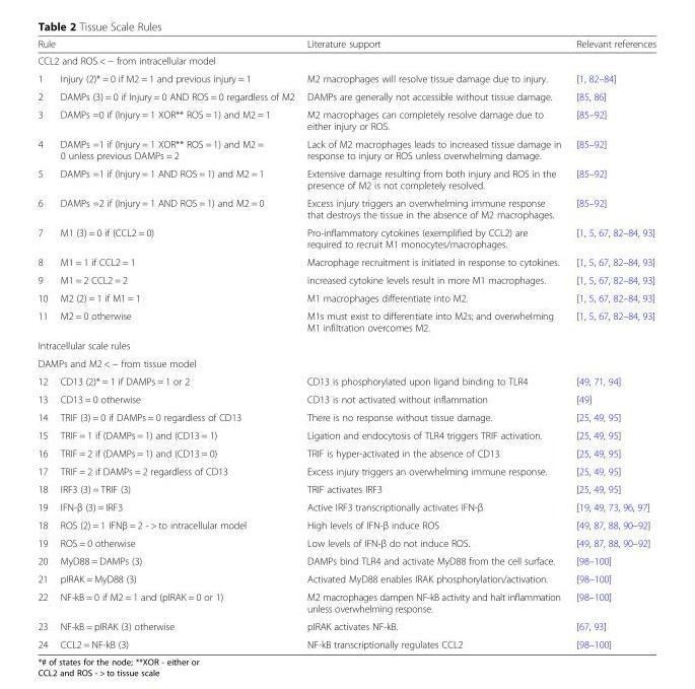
<table><thead><tr><td colspan="2">Rule</td><td>Literature support</td><td>Relevant references</td></tr><tr><td colspan="4">CCL2 and ROS &lt; − from intracellular model</td></tr><tr><td>1</td><td>Injury (2)* = 0 if M2 = 1 and previous injury = 1</td><td>M2 macrophages will resolve tissue damage due to injury.</td><td>[1, 82–84]</td></tr></thead><tbody><tr><td>2</td><td>DAMPs (3) = 0 if Injury = 0 AND ROS = 0 regardless of M2</td><td>DAMPs are generally not accessible without tissue damage.</td><td>[85, 86]</td></tr><tr><td>3</td><td>DAMPs =0 if (Injury = 1 XOR** ROS = 1) and M2 = 1</td><td>M2 macrophages can completely resolve damage due to either injury or ROS.</td><td>[85–92]</td></tr><tr><td>4</td><td>DAMPs =1 if (Injury = 1 XOR** ROS = 1) and M2 = 0 unless previous DAMPs = 2</td><td>Lack of M2 macrophages leads to increased tissue damage in response to injury or ROS unless overwhelming damage.</td><td>[85–92]</td></tr><tr><td>5</td><td>DAMPs =1 if (Injury = 1 AND ROS = 1) and M2 = 1</td><td>Extensive damage resulting from both injury and ROS in the presence of M2 is not completely resolved.</td><td>[85–92]</td></tr><tr><td>6</td><td>DAMPs =2 if (Injury = 1 AND ROS = 1) and M2 = 0</td><td>Excess injury triggers an overwhelming immune response that destroys the tissue in the absence of M2 macrophages.</td><td>[85–92]</td></tr><tr><td>7</td><td>M1 (3) = 0 if (CCL2 = 0)</td><td>Pro-inflammatory cytokines (exemplified by CCL2) are required to recruit M1 monocytes/macrophages.</td><td>[1, 5, 67, 82–84, 93]</td></tr><tr><td>8</td><td>M1 = 1 if CCL2 = 1</td><td>Macrophage recruitment is initiated in response to cytokines.</td><td>[1, 5, 67, 82–84, 93]</td></tr><tr><td>9</td><td>M1 = 2 CCL2 = 2</td><td>increased cytokine levels result in more M1 macrophages.</td><td>[1, 5, 67, 82–84, 93]</td></tr><tr><td>10</td><td>M2 (2) = 1 if M1 = 1</td><td>M1 macrophages differentiate into M2.</td><td>[1, 5, 67, 82–84, 93]</td></tr><tr><td>11</td><td>M2 = 0 otherwise</td><td>M1s must exist to differentiate into M2s; and overwhelming M1 infiltration overcomes M2.</td><td>[1, 5, 67, 82–84, 93]</td></tr><tr><td colspan="4">Intracellular scale rules</td></tr><tr><td colspan="4">DAMPs and M2 &lt; − from tissue model</td></tr><tr><td>12</td><td>CD13 (2)* = 1 if DAMPs = 1 or 2</td><td>CD13 is phosphorylated upon ligand binding to TLR4</td><td>[49, 71, 94]</td></tr><tr><td>13</td><td>CD13 = 0 otherwise</td><td>CD13 is not activated without inflammation</td><td>[49]</td></tr><tr><td>14</td><td>TRIF (3) = 0 if DAMPs = 0 regardless of CD13</td><td>There is no response without tissue damage.</td><td>[25, 49, 95]</td></tr><tr><td>15</td><td>TRIF = 1 if (DAMPs = 1) and (CD13 = 1)</td><td>Ligation and endocytosis of TLR4 triggers TRIF activation.</td><td>[25, 49, 95]</td></tr><tr><td>16</td><td>TRIF = 2 if (DAMPs = 1) and (CD13 = 0)</td><td>TRIF is hyper-activated in the absence of CD13</td><td>[25, 49, 95]</td></tr><tr><td>17</td><td>TRIF = 2 if DAMPs = 2 regardless of CD13</td><td>Excess injury triggers an overwhelming immune response.</td><td>[25, 49, 95]</td></tr><tr><td>18</td><td>IRF3 (3) = TRIF (3)</td><td>TRIF activates IRF3</td><td>[25, 49, 95]</td></tr><tr><td>19</td><td>IFN-β (3) = IRF3</td><td>Active IRF3 transcriptionally activates IFN-β</td><td>[19, 49, 73, 96, 97]</td></tr><tr><td>18</td><td>ROS (2) = 1 IFNβ = 2 - &gt; to intracellular model</td><td>High levels of IFN-β induce ROS</td><td>[49, 87, 88, 90–92]</td></tr><tr><td>19</td><td>ROS = 0 otherwise</td><td>Low levels of IFN-β do not induce ROS.</td><td>[49, 87, 88, 90–92]</td></tr><tr><td>20</td><td>MyD88 = DAMPs (3)</td><td>DAMPs bind TLR4 and activate MyD88 from the cell surface.</td><td>[98–100]</td></tr><tr><td>21</td><td>pIRAK = MyD88 (3)</td><td>Activated MyD88 enables IRAK phosphorylation/activation.</td><td>[98–100]</td></tr><tr><td>22</td><td>NF-kB = 0 if M2 = 1 and (pIRAK = 0 or 1)</td><td>M2 macrophages dampen NF-kB activity and halt inflammation unless overwhelming response.</td><td>[98–100]</td></tr><tr><td>23</td><td>NF-kB = pIRAK (3) otherwise</td><td>pIRAK activates NF-kB.</td><td>[67, 93]</td></tr><tr><td>24</td><td>CCL2 = NF-kB (3)</td><td>NF-kB transcriptionally regulates CCL2</td><td>[98–100]</td></tr></tbody></table>